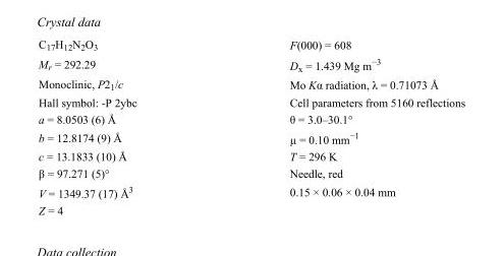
<table><tbody><tr><td>C<sub>17</sub>H<sub>12</sub>N<sub>2</sub>O<sub>3</sub></td><td>F(000) = 608</td></tr><tr><td>M<sub>r</sub> = 292.29</td><td>D<sub>x</sub> = 1.439 Mg m<sup>−3</sup></td></tr><tr><td>Monoclinic, P2<sub>1</sub>/c</td><td>Mo Kα radiation, λ = 0.71073 Å</td></tr><tr><td>Hall symbol: -P 2ybc</td><td>Cell parameters from 5160 reflections</td></tr><tr><td>a = 8.0503 (6) Å</td><td>θ = 3.0–30.1°</td></tr><tr><td>b = 12.8174 (9) Å</td><td>µ = 0.10 mm<sup>−1</sup></td></tr><tr><td>c = 13.1833 (10) Å</td><td>T = 296 K</td></tr><tr><td>β = 97.271 (5)°</td><td>Needle, red</td></tr><tr><td>V = 1349.37 (17) Å<sup>3</sup></td><td>0.15 × 0.06 × 0.04 mm</td></tr><tr><td>Z = 4</td><td></td></tr></tbody></table>